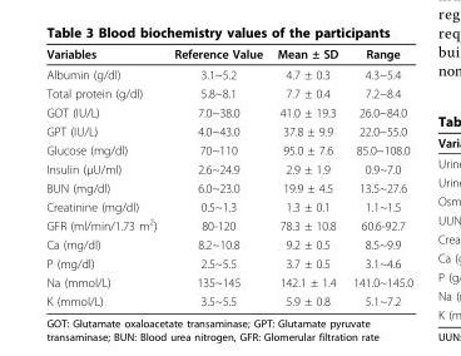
<table><thead><tr><td>Variables</td><td>Reference Value</td><td>Mean ± SD</td><td>Range</td></tr></thead><tbody><tr><td>Albumin (g/dl)</td><td>3.1~5.2</td><td>4.7 ± 0.3</td><td>4.3~5.4</td></tr><tr><td>Total protein (g/dl)</td><td>5.8~8.1</td><td>7.7 ± 0.4</td><td>7.2~8.4</td></tr><tr><td>GOT (IU/L)</td><td>7.0~38.0</td><td>41.0 ± 19.3</td><td>26.0~84.0</td></tr><tr><td>GPT (IU/L)</td><td>4.0~43.0</td><td>37.8 ± 9.9</td><td>22.0~55.0</td></tr><tr><td>Glucose (mg/dl)</td><td>70~110</td><td>95.0 ± 7.6</td><td>85.0~108.0</td></tr><tr><td>Insulin (μU/ml)</td><td>2.6~24.9</td><td>2.9 ± 1.9</td><td>0.9~7.0</td></tr><tr><td>BUN (mg/dl)</td><td>6.0~23.0</td><td>19.9 ± 4.5</td><td>13.5~27.6</td></tr><tr><td>Creatinine (mg/dl)</td><td>0.5~1.3</td><td>1.3 ± 0.1</td><td>1.1~1.5</td></tr><tr><td>GFR (ml/min/1.73 m<sup>2</sup>)</td><td>80-120</td><td>78.3 ± 10.8</td><td>60.6-92.7</td></tr><tr><td>Ca (mg/dl)</td><td>8.2~10.8</td><td>9.2 ± 0.5</td><td>8.5~9.9</td></tr><tr><td>P (mg/dl)</td><td>2.5~5.5</td><td>3.7 ± 0.5</td><td>3.1~4.6</td></tr><tr><td>Na (mmol/L)</td><td>135~145</td><td>142.1 ± 1.4</td><td>141.0~145.0</td></tr><tr><td>K (mmol/L)</td><td>3.5~5.5</td><td>5.9 ± 0.8</td><td>5.1~7.2</td></tr></tbody></table>